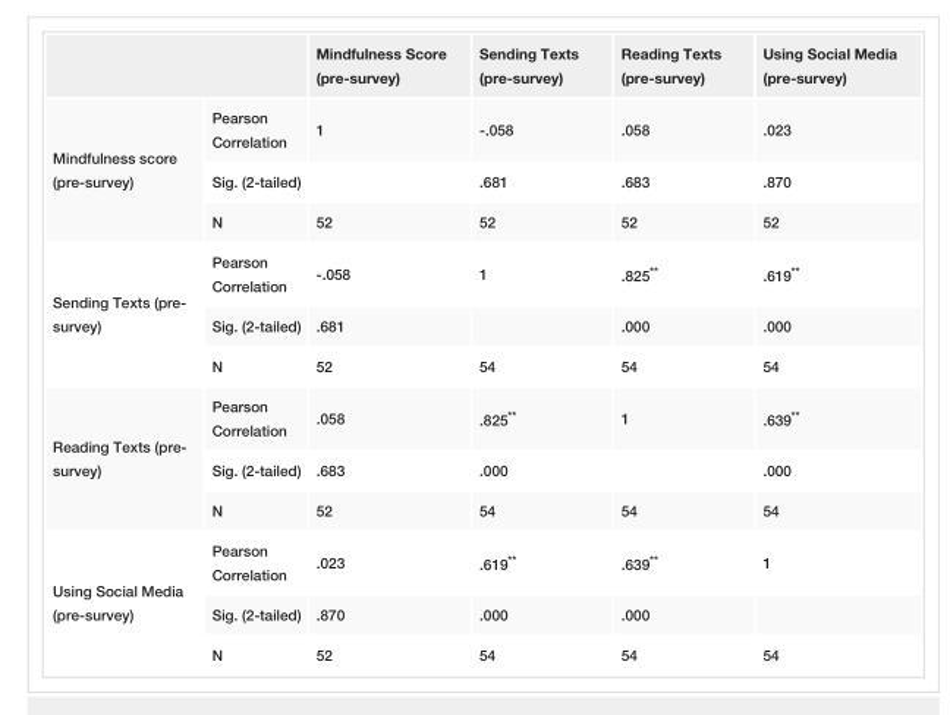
<table><thead><tr><td></td><td></td><td>Mindfulness Score (pre-survey)</td><td>Sending Texts (pre-survey)</td><td>Reading Texts (pre-survey)</td><td>Using Social Media (pre-survey)</td></tr></thead><tbody><tr><td rowspan="3">Mindfulness score (pre-survey)</td><td>Pearson Correlation</td><td>1</td><td>-.058</td><td>.058</td><td>.023</td></tr><tr><td>Sig. (2-tailed)</td><td></td><td>.681</td><td>.683</td><td>.870</td></tr><tr><td>N</td><td>52</td><td>52</td><td>52</td><td>52</td></tr><tr><td rowspan="3">Sending Texts (pre- survey)</td><td>Pearson Correlation</td><td>-.058</td><td>1</td><td>.825**</td><td>.619**</td></tr><tr><td>Sig. (2-tailed)</td><td>.681</td><td></td><td>.000</td><td>.000</td></tr><tr><td>N</td><td>52</td><td>54</td><td>54</td><td>54</td></tr><tr><td rowspan="3">Reading Texts (pre- survey)</td><td>Pearson Correlation</td><td>.058</td><td>.825**</td><td>1</td><td>.639**</td></tr><tr><td>Sig. (2-tailed)</td><td>.683</td><td>.000</td><td></td><td>.000</td></tr><tr><td>N</td><td>52</td><td>54</td><td>54</td><td>54</td></tr><tr><td rowspan="3">Using Social Media (pre-survey)</td><td>Pearson Correlation</td><td>.023</td><td>.619**</td><td>.639**</td><td>1</td></tr><tr><td>Sig. (2-tailed)</td><td>.870</td><td>.000</td><td>.000</td><td></td></tr><tr><td>N</td><td>52</td><td>54</td><td>54</td><td>54</td></tr></tbody></table>